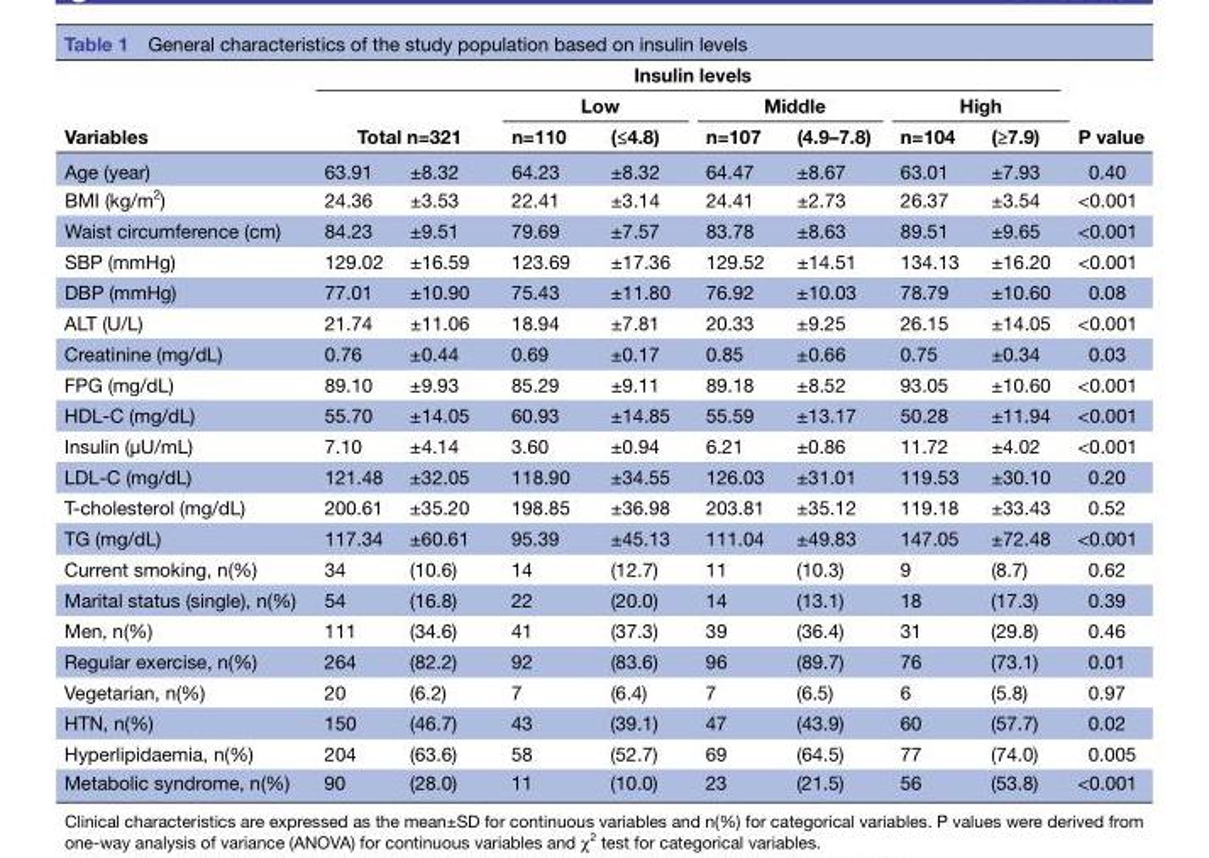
<table><thead><tr><td rowspan="4">Variables Age (year)</td><td colspan="8">Insulin levels</td><td rowspan="4">P value 0.40</td></tr><tr><td rowspan="2" colspan="2">Total n=321</td><td colspan="2">Low</td><td colspan="2">Middle</td><td colspan="2">High</td></tr><tr><td rowspan="2">n=110 64.23</td><td rowspan="2">(≤4.8) ±8.32</td><td rowspan="2">n=107 64.47</td><td rowspan="2">(4.9–7.8) ±8.67</td><td rowspan="2">n=104 63.01</td><td rowspan="2">(≥7.9) ±7.93</td></tr><tr><td>63.91</td><td>±8.32</td></tr></thead><tbody><tr><td>BMI (kg/m<sup>2</sup>)</td><td>24.36</td><td>±3.53</td><td>22.41</td><td>±3.14</td><td>24.41</td><td>±2.73</td><td>26.37</td><td>±3.54</td><td>&lt;0.001</td></tr><tr><td>Waist circumference (cm)</td><td>84.23</td><td>±9.51</td><td>79.69</td><td>±7.57</td><td>83.78</td><td>±8.63</td><td>89.51</td><td>±9.65</td><td>&lt;0.001</td></tr><tr><td>SBP (mmHg)</td><td>129.02</td><td>±16.59</td><td>123.69</td><td>±17.36</td><td>129.52</td><td>±14.51</td><td>134.13</td><td>±16.20</td><td>&lt;0.001</td></tr><tr><td>DBP (mmHg)</td><td>77.01</td><td>±10.90</td><td>75.43</td><td>±11.80</td><td>76.92</td><td>±10.03</td><td>78.79</td><td>±10.60</td><td>0.08</td></tr><tr><td>ALT (U/L)</td><td>21.74</td><td>±11.06</td><td>18.94</td><td>±7.81</td><td>20.33</td><td>±9.25</td><td>26.15</td><td>±14.05</td><td>&lt;0.001</td></tr><tr><td>Creatinine (mg/dL)</td><td>0.76</td><td>±0.44</td><td>0.69</td><td>±0.17</td><td>0.85</td><td>±0.66</td><td>0.75</td><td>±0.34</td><td>0.03</td></tr><tr><td>FPG (mg/dL)</td><td>89.10</td><td>±9.93</td><td>85.29</td><td>±9.11</td><td>89.18</td><td>±8.52</td><td>93.05</td><td>±10.60</td><td>&lt;0.001</td></tr><tr><td>HDL-C (mg/dL)</td><td>55.70</td><td>±14.05</td><td>60.93</td><td>±14.85</td><td>55.59</td><td>±13.17</td><td>50.28</td><td>±11.94</td><td>&lt;0.001</td></tr><tr><td>Insulin (μU/mL)</td><td>7.10</td><td>±4.14</td><td>3.60</td><td>±0.94</td><td>6.21</td><td>±0.86</td><td>11.72</td><td>±4.02</td><td>&lt;0.001</td></tr><tr><td>LDL-C (mg/dL)</td><td>121.48</td><td>±32.05</td><td>118.90</td><td>±34.55</td><td>126.03</td><td>±31.01</td><td>119.53</td><td>±30.10</td><td>0.20</td></tr><tr><td>T-cholesterol (mg/dL)</td><td>200.61</td><td>±35.20</td><td>198.85</td><td>±36.98</td><td>203.81</td><td>±35.12</td><td>119.18</td><td>±33.43</td><td>0.52</td></tr><tr><td>TG (mg/dL)</td><td>117.34</td><td>±60.61</td><td>95.39</td><td>±45.13</td><td>111.04</td><td>±49.83</td><td>147.05</td><td>±72.48</td><td>&lt;0.001</td></tr><tr><td>Current smoking, n(%)</td><td>34</td><td>(10.6)</td><td>14</td><td>(12.7)</td><td>11</td><td>(10.3)</td><td>9</td><td>(8.7)</td><td>0.62</td></tr><tr><td>Marital status (single), n(%)</td><td>54</td><td>(16.8)</td><td>22</td><td>(20.0)</td><td>14</td><td>(13.1)</td><td>18</td><td>(17.3)</td><td>0.39</td></tr><tr><td>Men, n(%)</td><td>111</td><td>(34.6)</td><td>41</td><td>(37.3)</td><td>39</td><td>(36.4)</td><td>31</td><td>(29.8)</td><td>0.46</td></tr><tr><td>Regular exercise, n(%)</td><td>264</td><td>(82.2)</td><td>92</td><td>(83.6)</td><td>96</td><td>(89.7)</td><td>76</td><td>(73.1)</td><td>0.01</td></tr><tr><td>Vegetarian, n(%)</td><td>20</td><td>(6.2)</td><td>7</td><td>(6.4)</td><td>7</td><td>(6.5)</td><td>6</td><td>(5.8)</td><td>0.97</td></tr><tr><td>HTN, n(%)</td><td>150</td><td>(46.7)</td><td>43</td><td>(39.1)</td><td>47</td><td>(43.9)</td><td>60</td><td>(57.7)</td><td>0.02</td></tr><tr><td>Hyperlipidaemia, n(%)</td><td>204</td><td>(63.6)</td><td>58</td><td>(52.7)</td><td>69</td><td>(64.5)</td><td>77</td><td>(74.0)</td><td>0.005</td></tr><tr><td>Metabolic syndrome, n(%)</td><td>90</td><td>(28.0)</td><td>11</td><td>(10.0)</td><td>23</td><td>(21.5)</td><td>56</td><td>(53.8)</td><td>&lt;0.001</td></tr></tbody></table>